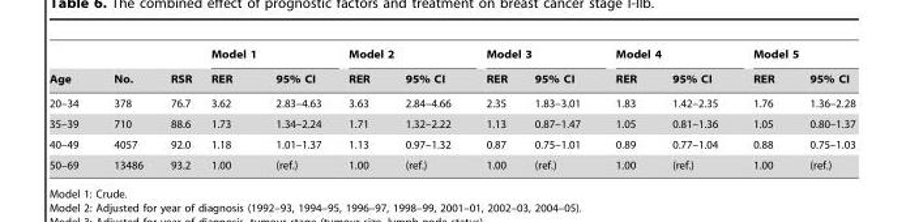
<table><thead><tr><td rowspan="2">Age</td><td rowspan="2">No.</td><td rowspan="2">RSR</td><td colspan="2">Model 1</td><td colspan="2">Model 2</td><td colspan="2">Model 3</td><td colspan="2">Model 4</td><td colspan="2">Model 5</td></tr><tr><td>RER</td><td>95% CI</td><td>RER</td><td>95% CI</td><td>RER</td><td>95% CI</td><td>RER</td><td>95% CI</td><td>RER</td><td>95% CI</td></tr></thead><tbody><tr><td>20–34</td><td>378</td><td>76.7</td><td>3.62</td><td>2.83–4.63</td><td>3.63</td><td>2.84–4.66</td><td>2.35</td><td>1.83–3.01</td><td>1.83</td><td>1.42–2.35</td><td>1.76</td><td>1.36–2.28</td></tr><tr><td>35–39</td><td>710</td><td>88.6</td><td>1.73</td><td>1.34–2.24</td><td>1.71</td><td>1.32–2.22</td><td>1.13</td><td>0.87–1.47</td><td>1.05</td><td>0.81–1.36</td><td>1.05</td><td>0.80–1.37</td></tr><tr><td>40–49</td><td>4057</td><td>92.0</td><td>1.18</td><td>1.01–1.37</td><td>1.13</td><td>0.97–1.32</td><td>0.87</td><td>0.75–1.01</td><td>0.89</td><td>0.77–1.04</td><td>0.88</td><td>0.75–1.03</td></tr><tr><td>50–69</td><td>13486</td><td>93.2</td><td>1.00</td><td>(ref.)</td><td>1.00</td><td>(ref.)</td><td>1.00</td><td>(ref.)</td><td>1.00</td><td>(ref.)</td><td>1.00</td><td>(ref.)</td></tr></tbody></table>